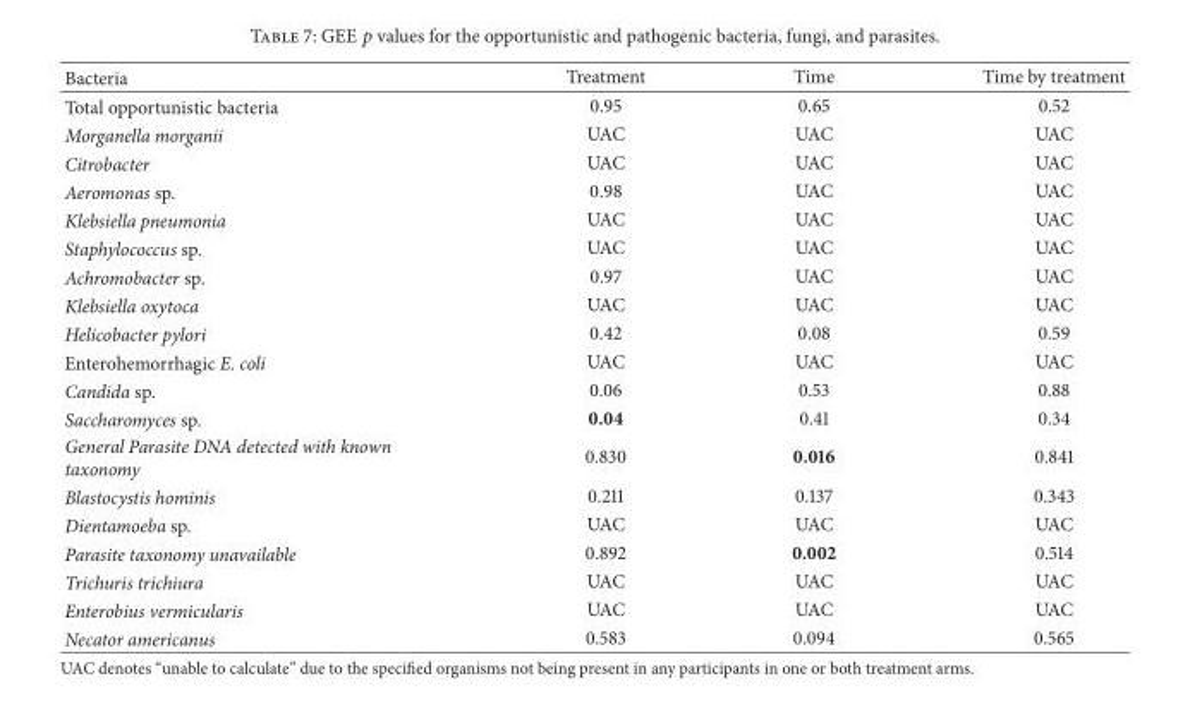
<table><thead><tr><td>Bacteria</td><td>Treatment</td><td>Time</td><td>Time by treatment</td></tr></thead><tbody><tr><td>Total opportunistic bacteria</td><td>0.95</td><td>0.65</td><td>0.52</td></tr><tr><td>Morganella morganii</td><td>UAC</td><td>UAC</td><td>UAC</td></tr><tr><td>Citrobacter</td><td>UAC</td><td>UAC</td><td>UAC</td></tr><tr><td>Aeromonas sp.</td><td>0.98</td><td>UAC</td><td>UAC</td></tr><tr><td>Klebsiella pneumonia</td><td>UAC</td><td>UAC</td><td>UAC</td></tr><tr><td>Staphylococcus sp.</td><td>UAC</td><td>UAC</td><td>UAC</td></tr><tr><td>Achromobacter sp.</td><td>0.97</td><td>UAC</td><td>UAC</td></tr><tr><td>Klebsiella oxytoca</td><td>UAC</td><td>UAC</td><td>UAC</td></tr><tr><td>Helicobacter pylori</td><td>0.42</td><td>0.08</td><td>0.59</td></tr><tr><td>Enterohemorrhagic E. coli</td><td>UAC</td><td>UAC</td><td>UAC</td></tr><tr><td>Candida sp.</td><td>0.06</td><td>0.53</td><td>0.88</td></tr><tr><td>Saccharomyces sp.</td><td>0.04</td><td>0.41</td><td>0.34</td></tr><tr><td>General Parasite DNA detected with known taxonomy</td><td>0.830</td><td>0.016</td><td>0.841</td></tr><tr><td>Blastocystis hominis</td><td>0.211</td><td>0.137</td><td>0.343</td></tr><tr><td>Dientamoeba sp.</td><td>UAC</td><td>UAC</td><td>UAC</td></tr><tr><td>Parasite taxonomy unavailable</td><td>0.892</td><td>0.002</td><td>0.514</td></tr><tr><td>Trichuris trichiura</td><td>UAC</td><td>UAC</td><td>UAC</td></tr><tr><td>Enterobius vermicularis</td><td>UAC</td><td>UAC</td><td>UAC</td></tr><tr><td>Necator americanus</td><td>0.583</td><td>0.094</td><td>0.565</td></tr></tbody></table>